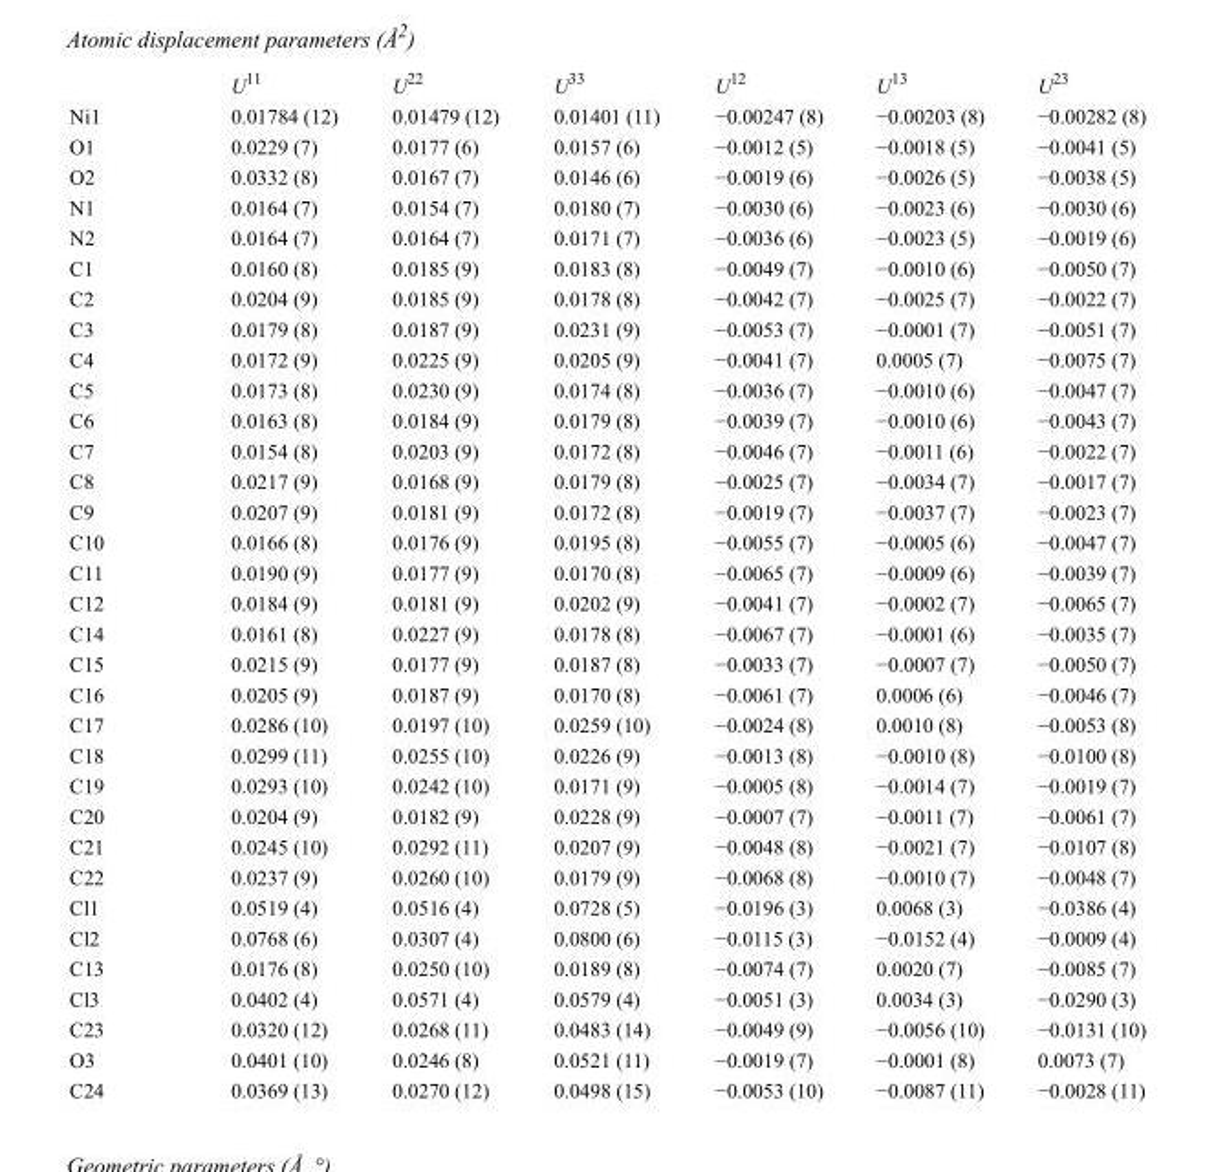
<table><thead><tr><td></td><td>U<sup>11</sup></td><td>U<sup>22</sup></td><td>U<sup>33</sup></td><td>U<sup>12</sup></td><td>U<sup>13</sup></td><td>U<sup>23</sup></td></tr></thead><tbody><tr><td>Ni1</td><td>0.01784 (12)</td><td>0.01479 (12)</td><td>0.01401 (11)</td><td>−0.00247 (8)</td><td>−0.00203 (8)</td><td>−0.00282 (8)</td></tr><tr><td>O1</td><td>0.0229 (7)</td><td>0.0177 (6)</td><td>0.0157 (6)</td><td>−0.0012 (5)</td><td>−0.0018 (5)</td><td>−0.0041 (5)</td></tr><tr><td>O2</td><td>0.0332 (8)</td><td>0.0167 (7)</td><td>0.0146 (6)</td><td>−0.0019 (6)</td><td>−0.0026 (5)</td><td>−0.0038 (5)</td></tr><tr><td>N1</td><td>0.0164 (7)</td><td>0.0154 (7)</td><td>0.0180 (7)</td><td>−0.0030 (6)</td><td>−0.0023 (6)</td><td>−0.0030 (6)</td></tr><tr><td>N2</td><td>0.0164 (7)</td><td>0.0164 (7)</td><td>0.0171 (7)</td><td>−0.0036 (6)</td><td>−0.0023 (5)</td><td>−0.0019 (6)</td></tr><tr><td>C1</td><td>0.0160 (8)</td><td>0.0185 (9)</td><td>0.0183 (8)</td><td>−0.0049 (7)</td><td>−0.0010 (6)</td><td>−0.0050 (7)</td></tr><tr><td>C2</td><td>0.0204 (9)</td><td>0.0185 (9)</td><td>0.0178 (8)</td><td>−0.0042 (7)</td><td>−0.0025 (7)</td><td>−0.0022 (7)</td></tr><tr><td>C3</td><td>0.0179 (8)</td><td>0.0187 (9)</td><td>0.0231 (9)</td><td>−0.0053 (7)</td><td>−0.0001 (7)</td><td>−0.0051 (7)</td></tr><tr><td>C4</td><td>0.0172 (9)</td><td>0.0225 (9)</td><td>0.0205 (9)</td><td>−0.0041 (7)</td><td>0.0005 (7)</td><td>−0.0075 (7)</td></tr><tr><td>C5</td><td>0.0173 (8)</td><td>0.0230 (9)</td><td>0.0174 (8)</td><td>−0.0036 (7)</td><td>−0.0010 (6)</td><td>−0.0047 (7)</td></tr><tr><td>C6</td><td>0.0163 (8)</td><td>0.0184 (9)</td><td>0.0179 (8)</td><td>−0.0039 (7)</td><td>−0.0010 (6)</td><td>−0.0043 (7)</td></tr><tr><td>C7</td><td>0.0154 (8)</td><td>0.0203 (9)</td><td>0.0172 (8)</td><td>−0.0046 (7)</td><td>−0.0011 (6)</td><td>−0.0022 (7)</td></tr><tr><td>C8</td><td>0.0217 (9)</td><td>0.0168 (9)</td><td>0.0179 (8)</td><td>−0.0025 (7)</td><td>−0.0034 (7)</td><td>−0.0017 (7)</td></tr><tr><td>C9</td><td>0.0207 (9)</td><td>0.0181 (9)</td><td>0.0172 (8)</td><td>−0.0019 (7)</td><td>−0.0037 (7)</td><td>−0.0023 (7)</td></tr><tr><td>C10</td><td>0.0166 (8)</td><td>0.0176 (9)</td><td>0.0195 (8)</td><td>−0.0055 (7)</td><td>−0.0005 (6)</td><td>−0.0047 (7)</td></tr><tr><td>C11</td><td>0.0190 (9)</td><td>0.0177 (9)</td><td>0.0170 (8)</td><td>−0.0065 (7)</td><td>−0.0009 (6)</td><td>−0.0039 (7)</td></tr><tr><td>C12</td><td>0.0184 (9)</td><td>0.0181 (9)</td><td>0.0202 (9)</td><td>−0.0041 (7)</td><td>−0.0002 (7)</td><td>−0.0065 (7)</td></tr><tr><td>C14</td><td>0.0161 (8)</td><td>0.0227 (9)</td><td>0.0178 (8)</td><td>−0.0067 (7)</td><td>−0.0001 (6)</td><td>−0.0035 (7)</td></tr><tr><td>C15</td><td>0.0215 (9)</td><td>0.0177 (9)</td><td>0.0187 (8)</td><td>−0.0033 (7)</td><td>−0.0007 (7)</td><td>−0.0050 (7)</td></tr><tr><td>C16</td><td>0.0205 (9)</td><td>0.0187 (9)</td><td>0.0170 (8)</td><td>−0.0061 (7)</td><td>0.0006 (6)</td><td>−0.0046 (7)</td></tr><tr><td>C17</td><td>0.0286 (10)</td><td>0.0197 (10)</td><td>0.0259 (10)</td><td>−0.0024 (8)</td><td>0.0010 (8)</td><td>−0.0053 (8)</td></tr><tr><td>C18</td><td>0.0299 (11)</td><td>0.0255 (10)</td><td>0.0226 (9)</td><td>−0.0013 (8)</td><td>−0.0010 (8)</td><td>−0.0100 (8)</td></tr><tr><td>C19</td><td>0.0293 (10)</td><td>0.0242 (10)</td><td>0.0171 (9)</td><td>−0.0005 (8)</td><td>−0.0014 (7)</td><td>−0.0019 (7)</td></tr><tr><td>C20</td><td>0.0204 (9)</td><td>0.0182 (9)</td><td>0.0228 (9)</td><td>−0.0007 (7)</td><td>−0.0011 (7)</td><td>−0.0061 (7)</td></tr><tr><td>C21</td><td>0.0245 (10)</td><td>0.0292 (11)</td><td>0.0207 (9)</td><td>−0.0048 (8)</td><td>−0.0021 (7)</td><td>−0.0107 (8)</td></tr><tr><td>C22</td><td>0.0237 (9)</td><td>0.0260 (10)</td><td>0.0179 (9)</td><td>−0.0068 (8)</td><td>−0.0010 (7)</td><td>−0.0048 (7)</td></tr><tr><td>Cl1</td><td>0.0519 (4)</td><td>0.0516 (4)</td><td>0.0728 (5)</td><td>−0.0196 (3)</td><td>0.0068 (3)</td><td>−0.0386 (4)</td></tr><tr><td>Cl2</td><td>0.0768 (6)</td><td>0.0307 (4)</td><td>0.0800 (6)</td><td>−0.0115 (3)</td><td>−0.0152 (4)</td><td>−0.0009 (4)</td></tr><tr><td>C13</td><td>0.0176 (8)</td><td>0.0250 (10)</td><td>0.0189 (8)</td><td>−0.0074 (7)</td><td>0.0020 (7)</td><td>−0.0085 (7)</td></tr><tr><td>Cl3</td><td>0.0402 (4)</td><td>0.0571 (4)</td><td>0.0579 (4)</td><td>−0.0051 (3)</td><td>0.0034 (3)</td><td>−0.0290 (3)</td></tr><tr><td>C23</td><td>0.0320 (12)</td><td>0.0268 (11)</td><td>0.0483 (14)</td><td>−0.0049 (9)</td><td>−0.0056 (10)</td><td>−0.0131 (10)</td></tr><tr><td>O3</td><td>0.0401 (10)</td><td>0.0246 (8)</td><td>0.0521 (11)</td><td>−0.0019 (7)</td><td>−0.0001 (8)</td><td>0.0073 (7)</td></tr><tr><td>C24</td><td>0.0369 (13)</td><td>0.0270 (12)</td><td>0.0498 (15)</td><td>−0.0053 (10)</td><td>−0.0087 (11)</td><td>−0.0028 (11)</td></tr></tbody></table>